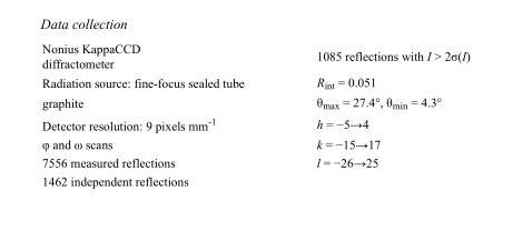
<table><tbody><tr><td>Nonius KappaCCD diffractometer</td><td>1085 reflections with I &gt; 2σ(I)</td></tr><tr><td>Radiation source: fine-focus sealed tube</td><td>R<sub>int</sub> = 0.051</td></tr><tr><td>graphite</td><td>θ<sub>max</sub> = 27.4°, θ<sub>min</sub> = 4.3°</td></tr><tr><td>Detector resolution: 9 pixels mm<sup>-1</sup></td><td>h = −5→4</td></tr><tr><td>φ and ω scans</td><td>k = −15→17</td></tr><tr><td>7556 measured reflections</td><td>l = −26→25</td></tr><tr><td>1462 independent reflections</td><td></td></tr></tbody></table>